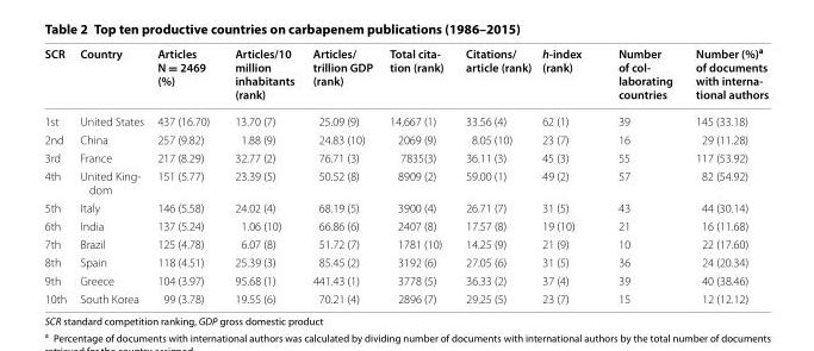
<table><thead><tr><td>SCR</td><td>Country</td><td>Articles N = 2469 (%)</td><td>Articles/10 million inhabitants (rank)</td><td>Articles/ trillion GDP (rank)</td><td>Total cita- tion (rank)</td><td>Citations/ article (rank)</td><td>h-index (rank)</td><td>Number of col- laborating countries</td><td>Number (%)a of documents with interna- tional authors</td></tr></thead><tbody><tr><td>1st</td><td>United States</td><td>437 (16.70)</td><td>13.70 (7)</td><td>25.09 (9)</td><td>14,667 (1)</td><td>33.56 (4)</td><td>62 (1)</td><td>39</td><td>145 (33.18)</td></tr><tr><td>2nd</td><td>China</td><td>257 (9.82)</td><td>1.88 (9)</td><td>24.83 (10)</td><td>2069 (9)</td><td>8.05 (10)</td><td>23 (7)</td><td>16</td><td>29 (11.28)</td></tr><tr><td>3rd</td><td>France</td><td>217 (8.29)</td><td>32.77 (2)</td><td>76.71 (3)</td><td>7835(3)</td><td>36.11 (3)</td><td>45 (3)</td><td>55</td><td>117 (53.92)</td></tr><tr><td>4th</td><td>United King‑ dom</td><td>151 (5.77)</td><td>23.39 (5)</td><td>50.52 (8)</td><td>8909 (2)</td><td>59.00 (1)</td><td>49 (2)</td><td>57</td><td>82 (54.92)</td></tr><tr><td>5th</td><td>Italy</td><td>146 (5.58)</td><td>24.02 (4)</td><td>68.19 (5)</td><td>3900 (4)</td><td>26.71 (7)</td><td>31 (5)</td><td>43</td><td>44 (30.14)</td></tr><tr><td>6th</td><td>India</td><td>137 (5.24)</td><td>1.06 (10)</td><td>66.86 (6)</td><td>2407 (8)</td><td>17.57 (8)</td><td>19 (10)</td><td>21</td><td>16 (11.68)</td></tr><tr><td>7th</td><td>Brazil</td><td>125 (4.78)</td><td>6.07 (8)</td><td>51.72 (7)</td><td>1781 (10)</td><td>14.25 (9)</td><td>21 (9)</td><td>10</td><td>22 (17.60)</td></tr><tr><td>8th</td><td>Spain</td><td>118 (4.51)</td><td>25.39 (3)</td><td>85.45 (2)</td><td>3192 (6)</td><td>27.05 (6)</td><td>31 (5)</td><td>36</td><td>24 (20.34)</td></tr><tr><td>9th</td><td>Greece</td><td>104 (3.97)</td><td>95.68 (1)</td><td>441.43 (1)</td><td>3778 (5)</td><td>36.33 (2)</td><td>37 (4)</td><td>39</td><td>40 (38.46)</td></tr><tr><td>10th</td><td>South Korea</td><td>99 (3.78)</td><td>19.55 (6)</td><td>70.21 (4)</td><td>2896 (7)</td><td>29.25 (5)</td><td>23 (7)</td><td>15</td><td>12 (12.12)</td></tr></tbody></table>